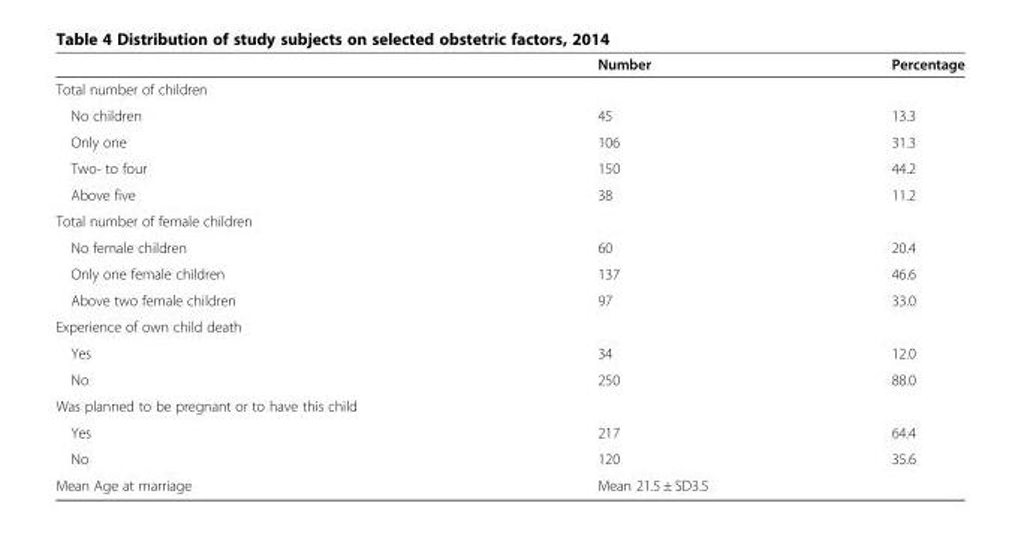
<table><thead><tr><td></td><td>Number</td><td>Percentage</td></tr></thead><tbody><tr><td colspan="3">Total number of children</td></tr><tr><td>No children</td><td>45</td><td>13.3</td></tr><tr><td>Only one</td><td>106</td><td>31.3</td></tr><tr><td>Two- to four</td><td>150</td><td>44.2</td></tr><tr><td>Above five</td><td>38</td><td>11.2</td></tr><tr><td colspan="3">Total number of female children</td></tr><tr><td>No female children</td><td>60</td><td>20.4</td></tr><tr><td>Only one female children</td><td>137</td><td>46.6</td></tr><tr><td>Above two female children</td><td>97</td><td>33.0</td></tr><tr><td colspan="3">Experience of own child death</td></tr><tr><td>Yes</td><td>34</td><td>12.0</td></tr><tr><td>No</td><td>250</td><td>88.0</td></tr><tr><td colspan="3">Was planned to be pregnant or to have this child</td></tr><tr><td>Yes</td><td>217</td><td>64.4</td></tr><tr><td>No</td><td>120</td><td>35.6</td></tr><tr><td>Mean Age at marriage</td><td colspan="2">Mean 21.5 ± SD3.5</td></tr></tbody></table>